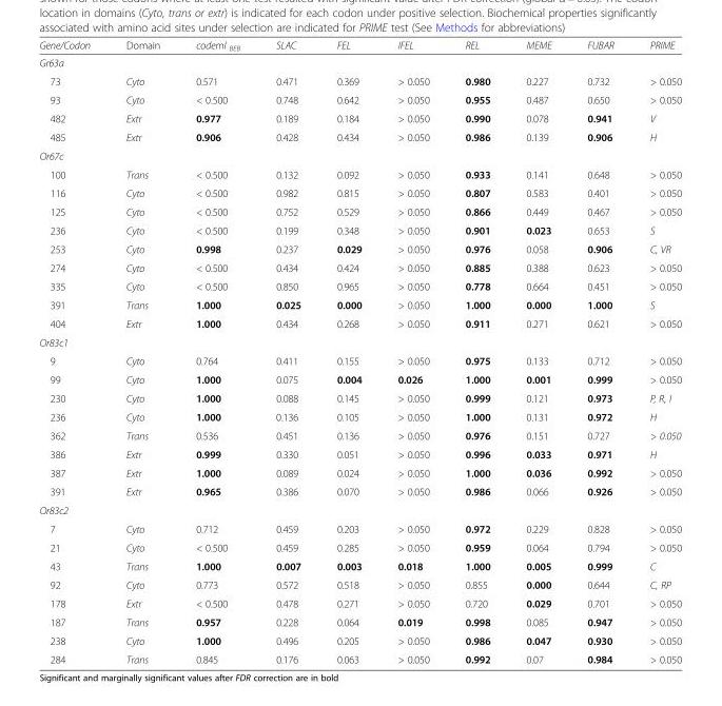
<table><thead><tr><td>Gene/Codon</td><td>Domain</td><td>codeml <sub>BEB</sub></td><td>SLAC</td><td>FEL</td><td>IFEL</td><td>REL</td><td>MEME</td><td>FUBAR</td><td>PRIME</td></tr></thead><tbody><tr><td colspan="10">Gr63a</td></tr><tr><td>73</td><td>Cyto</td><td>0.571</td><td>0.471</td><td>0.369</td><td>&gt; 0.050</td><td>0.980</td><td>0.227</td><td>0.732</td><td>&gt; 0.050</td></tr><tr><td>93</td><td>Cyto</td><td>&lt; 0.500</td><td>0.748</td><td>0.642</td><td>&gt; 0.050</td><td>0.955</td><td>0.487</td><td>0.650</td><td>&gt; 0.050</td></tr><tr><td>482</td><td>Extr</td><td>0.977</td><td>0.189</td><td>0.184</td><td>&gt; 0.050</td><td>0.990</td><td>0.078</td><td>0.941</td><td>V</td></tr><tr><td>485</td><td>Extr</td><td>0.906</td><td>0.428</td><td>0.434</td><td>&gt; 0.050</td><td>0.986</td><td>0.139</td><td>0.906</td><td>H</td></tr><tr><td colspan="10">Or67c</td></tr><tr><td>100</td><td>Trans</td><td>&lt; 0.500</td><td>0.132</td><td>0.092</td><td>&gt; 0.050</td><td>0.933</td><td>0.141</td><td>0.648</td><td>&gt; 0.050</td></tr><tr><td>116</td><td>Cyto</td><td>&lt; 0.500</td><td>0.982</td><td>0.815</td><td>&gt; 0.050</td><td>0.807</td><td>0.583</td><td>0.401</td><td>&gt; 0.050</td></tr><tr><td>125</td><td>Cyto</td><td>&lt; 0.500</td><td>0.752</td><td>0.529</td><td>&gt; 0.050</td><td>0.866</td><td>0.449</td><td>0.467</td><td>&gt; 0.050</td></tr><tr><td>236</td><td>Cyto</td><td>&lt; 0.500</td><td>0.199</td><td>0.348</td><td>&gt; 0.050</td><td>0.901</td><td>0.023</td><td>0.653</td><td>S</td></tr><tr><td>253</td><td>Cyto</td><td>0.998</td><td>0.237</td><td>0.029</td><td>&gt; 0.050</td><td>0.976</td><td>0.058</td><td>0.906</td><td>C, VR</td></tr><tr><td>274</td><td>Cyto</td><td>&lt; 0.500</td><td>0.434</td><td>0.424</td><td>&gt; 0.050</td><td>0.885</td><td>0.388</td><td>0.623</td><td>&gt; 0.050</td></tr><tr><td>335</td><td>Cyto</td><td>&lt; 0.500</td><td>0.850</td><td>0.965</td><td>&gt; 0.050</td><td>0.778</td><td>0.664</td><td>0.451</td><td>&gt; 0.050</td></tr><tr><td>391</td><td>Trans</td><td>1.000</td><td>0.025</td><td>0.000</td><td>&gt; 0.050</td><td>1.000</td><td>0.000</td><td>1.000</td><td>S</td></tr><tr><td>404</td><td>Extr</td><td>1.000</td><td>0.434</td><td>0.268</td><td>&gt; 0.050</td><td>0.911</td><td>0.271</td><td>0.621</td><td>&gt; 0.050</td></tr><tr><td colspan="10">Or83c1</td></tr><tr><td>9</td><td>Cyto</td><td>0.764</td><td>0.411</td><td>0.155</td><td>&gt; 0.050</td><td>0.975</td><td>0.133</td><td>0.712</td><td>&gt; 0.050</td></tr><tr><td>99</td><td>Cyto</td><td>1.000</td><td>0.075</td><td>0.004</td><td>0.026</td><td>1.000</td><td>0.001</td><td>0.999</td><td>&gt; 0.050</td></tr><tr><td>230</td><td>Cyto</td><td>1.000</td><td>0.088</td><td>0.145</td><td>&gt; 0.050</td><td>0.999</td><td>0.121</td><td>0.973</td><td>P, R, I</td></tr><tr><td>236</td><td>Cyto</td><td>1.000</td><td>0.136</td><td>0.105</td><td>&gt; 0.050</td><td>1.000</td><td>0.131</td><td>0.972</td><td>H</td></tr><tr><td>362</td><td>Trans</td><td>0.536</td><td>0.451</td><td>0.136</td><td>&gt; 0.050</td><td>0.976</td><td>0.151</td><td>0.727</td><td>&gt; 0.050</td></tr><tr><td>386</td><td>Extr</td><td>0.999</td><td>0.330</td><td>0.051</td><td>&gt; 0.050</td><td>0.996</td><td>0.033</td><td>0.971</td><td>H</td></tr><tr><td>387</td><td>Extr</td><td>1.000</td><td>0.089</td><td>0.024</td><td>&gt; 0.050</td><td>1.000</td><td>0.036</td><td>0.992</td><td>&gt; 0.050</td></tr><tr><td>391</td><td>Extr</td><td>0.965</td><td>0.386</td><td>0.070</td><td>&gt; 0.050</td><td>0.986</td><td>0.066</td><td>0.926</td><td>&gt; 0.050</td></tr><tr><td colspan="10">Or83c2</td></tr><tr><td>7</td><td>Cyto</td><td>0.712</td><td>0.459</td><td>0.203</td><td>&gt; 0.050</td><td>0.972</td><td>0.229</td><td>0.828</td><td>&gt; 0.050</td></tr><tr><td>21</td><td>Cyto</td><td>&lt; 0.500</td><td>0.459</td><td>0.285</td><td>&gt; 0.050</td><td>0.959</td><td>0.064</td><td>0.794</td><td>&gt; 0.050</td></tr><tr><td>43</td><td>Trans</td><td>1.000</td><td>0.007</td><td>0.003</td><td>0.018</td><td>1.000</td><td>0.005</td><td>0.999</td><td>C</td></tr><tr><td>92</td><td>Cyto</td><td>0.773</td><td>0.572</td><td>0.518</td><td>&gt; 0.050</td><td>0.855</td><td>0.000</td><td>0.644</td><td>C, RP</td></tr><tr><td>178</td><td>Extr</td><td>&lt; 0.500</td><td>0.478</td><td>0.271</td><td>&gt; 0.050</td><td>0.720</td><td>0.029</td><td>0.701</td><td>&gt; 0.050</td></tr><tr><td>187</td><td>Trans</td><td>0.957</td><td>0.228</td><td>0.064</td><td>0.019</td><td>0.998</td><td>0.085</td><td>0.947</td><td>&gt; 0.050</td></tr><tr><td>238</td><td>Cyto</td><td>1.000</td><td>0.496</td><td>0.205</td><td>&gt; 0.050</td><td>0.986</td><td>0.047</td><td>0.930</td><td>&gt; 0.050</td></tr><tr><td>284</td><td>Trans</td><td>0.845</td><td>0.176</td><td>0.063</td><td>&gt; 0.050</td><td>0.992</td><td>0.07</td><td>0.984</td><td>&gt; 0.050</td></tr></tbody></table>